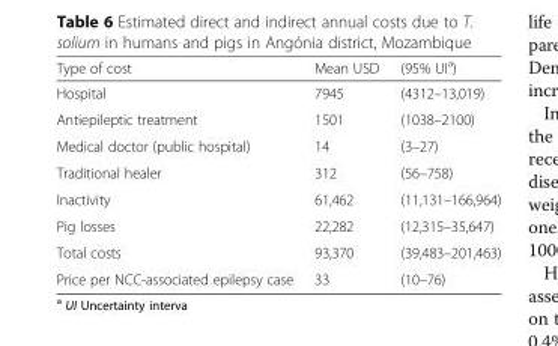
<table><thead><tr><td>Type of cost</td><td>Mean USD</td><td>(95% UI<sup>a</sup>)</td></tr></thead><tbody><tr><td>Hospital</td><td>7945</td><td>(4312–13,019)</td></tr><tr><td>Antiepileptic treatment</td><td>1501</td><td>(1038–2100)</td></tr><tr><td>Medical doctor (public hospital)</td><td>14</td><td>(3–27)</td></tr><tr><td>Traditional healer</td><td>312</td><td>(56–758)</td></tr><tr><td>Inactivity</td><td>61,462</td><td>(11,131–166,964)</td></tr><tr><td>Pig losses</td><td>22,282</td><td>(12,315–35,647)</td></tr><tr><td>Total costs</td><td>93,370</td><td>(39,483–201,463)</td></tr><tr><td>Price per NCC-associated epilepsy case</td><td>33</td><td>(10–76)</td></tr></tbody></table>